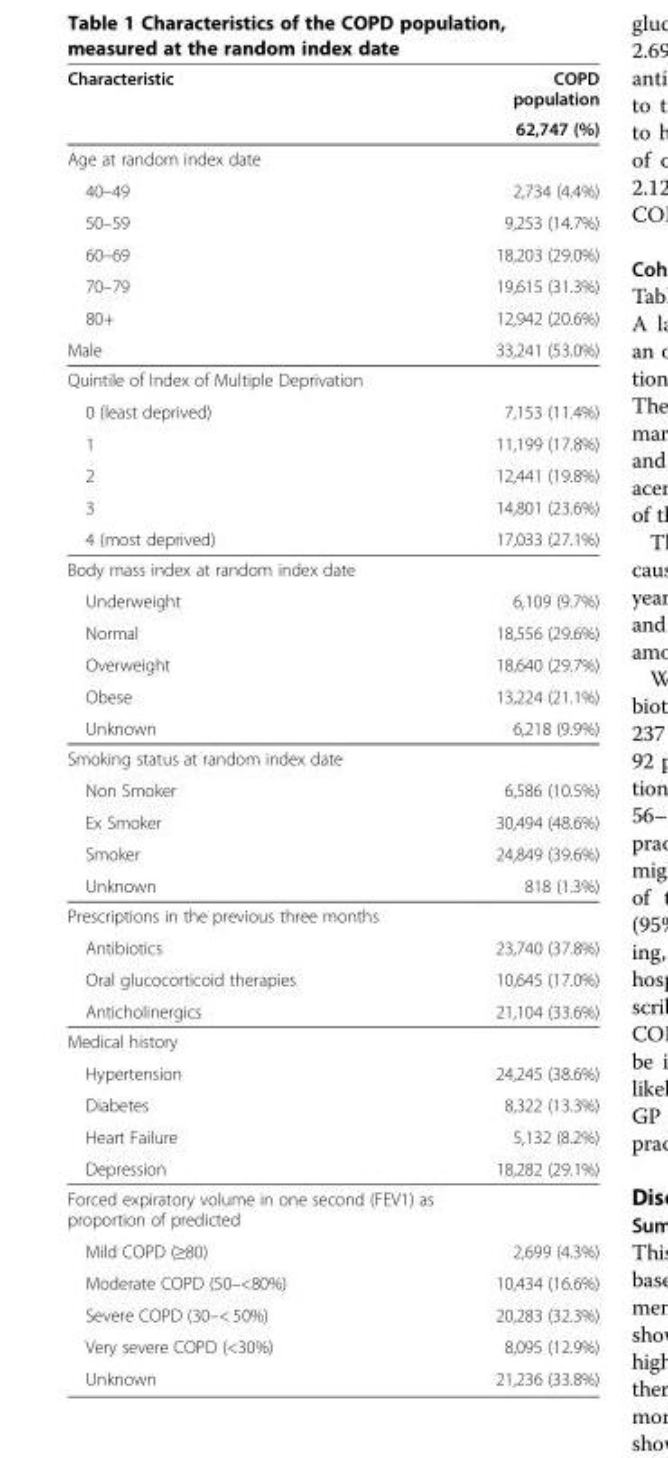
<table><thead><tr><td rowspan="2">Characteristic</td><td rowspan="2">COPD population 62,747 (%)</td></tr><tr></tr></thead><tbody><tr><td colspan="2">Age at random index date</td></tr><tr><td>40–49</td><td>2,734 (4.4%)</td></tr><tr><td>50–59</td><td>9,253 (14.7%)</td></tr><tr><td>60–69</td><td>18,203 (29.0%)</td></tr><tr><td>70–79</td><td>19,615 (31.3%)</td></tr><tr><td>80+</td><td>12,942 (20.6%)</td></tr><tr><td>Male</td><td>33,241 (53.0%)</td></tr><tr><td colspan="2">Quintile of Index of Multiple Deprivation</td></tr><tr><td>0 (least deprived)</td><td>7,153 (11.4%)</td></tr><tr><td>1</td><td>11,199 (17.8%)</td></tr><tr><td>2</td><td>12,441 (19.8%)</td></tr><tr><td>3</td><td>14,801 (23.6%)</td></tr><tr><td>4 (most deprived)</td><td>17,033 (27.1%)</td></tr><tr><td colspan="2">Body mass index at random index date</td></tr><tr><td>Underweight</td><td>6,109 (9.7%)</td></tr><tr><td>Normal</td><td>18,556 (29.6%)</td></tr><tr><td>Overweight</td><td>18,640 (29.7%)</td></tr><tr><td>Obese</td><td>13,224 (21.1%)</td></tr><tr><td>Unknown</td><td>6,218 (9.9%)</td></tr><tr><td colspan="2">Smoking status at random index date</td></tr><tr><td>Non Smoker</td><td>6,586 (10.5%)</td></tr><tr><td>Ex Smoker</td><td>30,494 (48.6%)</td></tr><tr><td>Smoker</td><td>24,849 (39.6%)</td></tr><tr><td>Unknown</td><td>818 (1.3%)</td></tr><tr><td colspan="2">Prescriptions in the previous three months</td></tr><tr><td>Antibiotics</td><td>23,740 (37.8%)</td></tr><tr><td>Oral glucocorticoid therapies</td><td>10,645 (17.0%)</td></tr><tr><td>Anticholinergics</td><td>21,104 (33.6%)</td></tr><tr><td colspan="2">Medical history</td></tr><tr><td>Hypertension</td><td>24,245 (38.6%)</td></tr><tr><td>Diabetes</td><td>8,322 (13.3%)</td></tr><tr><td>Heart Failure</td><td>5,132 (8.2%)</td></tr><tr><td>Depression</td><td>18,282 (29.1%)</td></tr><tr><td colspan="2">Forced expiratory volume in one second (FEV1) as proportion of predicted</td></tr><tr><td>Mild COPD (≥80)</td><td>2,699 (4.3%)</td></tr><tr><td>Moderate COPD (50–&lt;80%)</td><td>10,434 (16.6%)</td></tr><tr><td>Severe COPD (30–&lt; 50%)</td><td>20,283 (32.3%)</td></tr><tr><td>Very severe COPD (&lt;30%)</td><td>8,095 (12.9%)</td></tr><tr><td>Unknown</td><td>21,236 (33.8%)</td></tr></tbody></table>